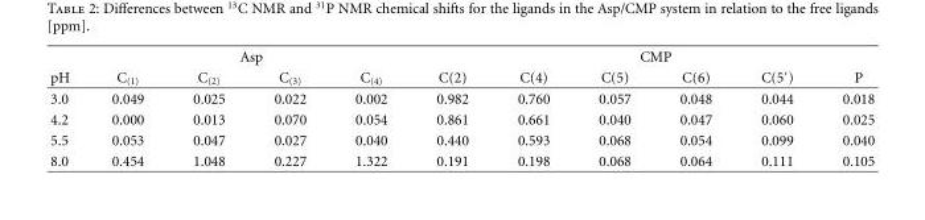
<table><thead><tr><td rowspan="2">pH</td><td colspan="4">Asp</td><td colspan="6">CMP</td></tr><tr><td>C<sub>(1)</sub></td><td>C<sub>(2)</sub></td><td>C<sub>(3)</sub></td><td>C<sub>(4)</sub></td><td>C(2)</td><td>C(4)</td><td>C(5)</td><td>C(6)</td><td>C(5′)</td><td>P</td></tr></thead><tbody><tr><td>3.0</td><td>0.049</td><td>0.025</td><td>0.022</td><td>0.002</td><td>0.982</td><td>0.760</td><td>0.057</td><td>0.048</td><td>0.044</td><td>0.018</td></tr><tr><td>4.2</td><td>0.000</td><td>0.013</td><td>0.070</td><td>0.054</td><td>0.861</td><td>0.661</td><td>0.040</td><td>0.047</td><td>0.060</td><td>0.025</td></tr><tr><td>5.5</td><td>0.053</td><td>0.047</td><td>0.027</td><td>0.040</td><td>0.440</td><td>0.593</td><td>0.068</td><td>0.054</td><td>0.099</td><td>0.040</td></tr><tr><td>8.0</td><td>0.454</td><td>1.048</td><td>0.227</td><td>1.322</td><td>0.191</td><td>0.198</td><td>0.068</td><td>0.064</td><td>0.111</td><td>0.105</td></tr></tbody></table>